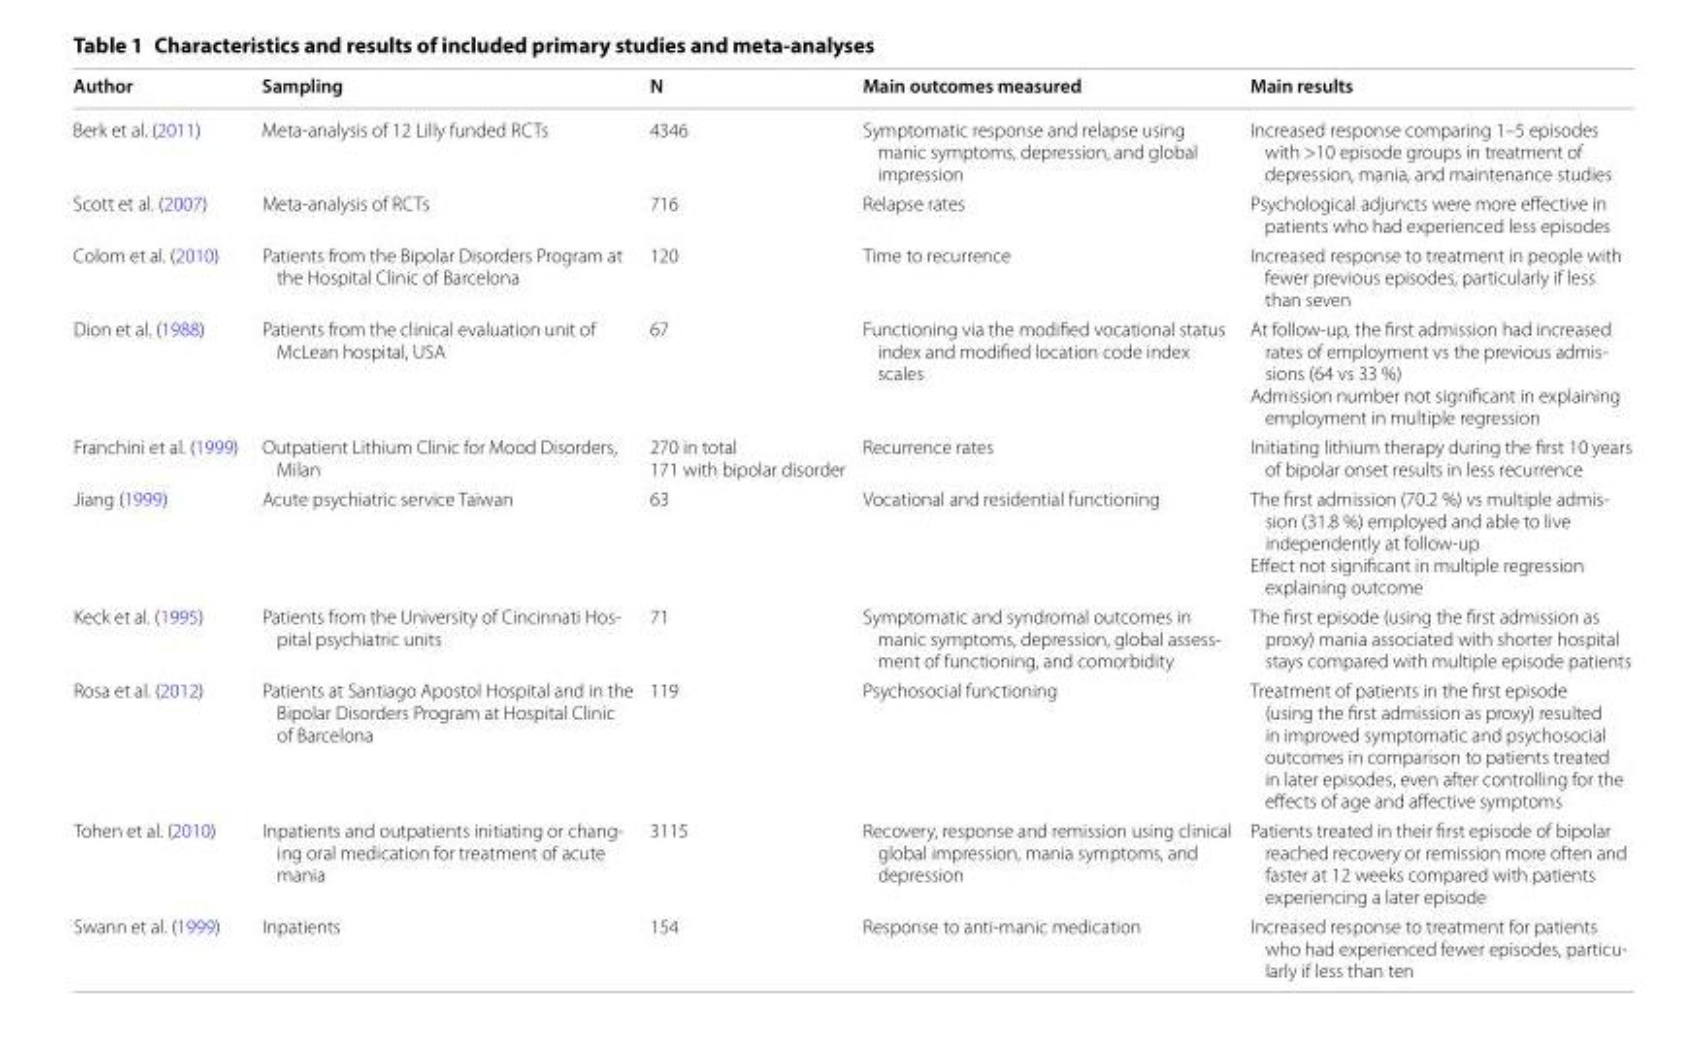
<table><thead><tr><td>Author</td><td>Sampling</td><td>N</td><td>Main outcomes measured</td><td>Main results</td></tr></thead><tbody><tr><td>Berk et al. (2011)</td><td>Meta-analysis of 12 Lilly funded RCTs</td><td>4346</td><td>Symptomatic response and relapse using manic symptoms, depression, and global impression</td><td>Increased response comparing 1–5 episodes with &gt;10 episode groups in treatment of depression, mania, and maintenance studies</td></tr><tr><td>Scott et al. (2007)</td><td>Meta-analysis of RCTs</td><td>716</td><td>Relapse rates</td><td>Psychological adjuncts were more effective in patients who had experienced less episodes</td></tr><tr><td>Colom et al. (2010)</td><td>Patients from the Bipolar Disorders Program at the Hospital Clinic of Barcelona</td><td>120</td><td>Time to recurrence</td><td>Increased response to treatment in people with fewer previous episodes, particularly if less than seven</td></tr><tr><td>Dion et al. (1988)</td><td>Patients from the clinical evaluation unit of McLean hospital, USA</td><td>67</td><td>Functioning via the modified vocational status index and modified location code index scales</td><td>At follow-up, the first admission had increased rates of employment vs the previous admis- sions (64 vs 33 %) Admission number not significant in explaining employment in multiple regression</td></tr><tr><td>Franchini et al. (1999)</td><td>Outpatient Lithium Clinic for Mood Disorders, Milan</td><td>270 in total 171 with bipolar disorder</td><td>Recurrence rates</td><td>Initiating lithium therapy during the first 10 years of bipolar onset results in less recurrence</td></tr><tr><td>Jiang (1999)</td><td>Acute psychiatric service Taiwan</td><td>63</td><td>Vocational and residential functioning</td><td>The first admission (70.2 %) vs multiple admis- sion (31.8 %) employed and able to live independently at follow-up Effect not significant in multiple regression explaining outcome</td></tr><tr><td>Keck et al. (1995)</td><td>Patients from the University of Cincinnati Hos- pital psychiatric units</td><td>71</td><td>Symptomatic and syndromal outcomes in manic symptoms, depression, global assess- ment of functioning, and comorbidity</td><td>The first episode (using the first admission as proxy) mania associated with shorter hospital stays compared with multiple episode patients</td></tr><tr><td>Rosa et al. (2012)</td><td>Patients at Santiago Apostol Hospital and in the Bipolar Disorders Program at Hospital Clinic of Barcelona</td><td>119</td><td>Psychosocial functioning</td><td>Treatment of patients in the first episode (using the first admission as proxy) resulted in improved symptomatic and psychosocial outcomes in comparison to patients treated in later episodes, even after controlling for the effects of age and affective symptoms</td></tr><tr><td>Tohen et al. (2010)</td><td>Inpatients and outpatients initiating or chang- ing oral medication for treatment of acute mania</td><td>3115</td><td>Recovery, response and remission using clinical global impression, mania symptoms, and depression</td><td>Patients treated in their first episode of bipolar reached recovery or remission more often and faster at 12 weeks compared with patients experiencing a later episode</td></tr><tr><td>Swann et al. (1999)</td><td>Inpatients</td><td>154</td><td>Response to anti-manic medication</td><td>Increased response to treatment for patients who had experienced fewer episodes, particu- larly if less than ten</td></tr></tbody></table>